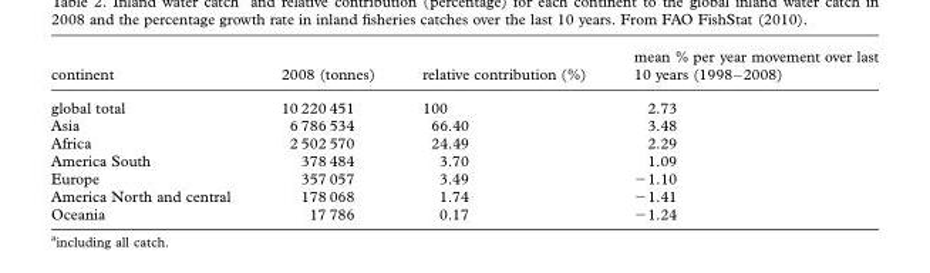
<table><thead><tr><td>continent</td><td>2008 (tonnes)</td><td>relative contribution (%)</td><td>mean % per year movement over last 10 years (1998–2008)</td></tr></thead><tbody><tr><td>global total</td><td>10 220 451</td><td>100</td><td>2.73</td></tr><tr><td>Asia</td><td>6 786 534</td><td>66.40</td><td>3.48</td></tr><tr><td>Africa</td><td>2 502 570</td><td>24.49</td><td>2.29</td></tr><tr><td>America South</td><td>378 484</td><td>3.70</td><td>1.09</td></tr><tr><td>Europe</td><td>357 057</td><td>3.49</td><td>−1.10</td></tr><tr><td>America North and central</td><td>178 068</td><td>1.74</td><td>−1.41</td></tr><tr><td>Oceania</td><td>17 786</td><td>0.17</td><td>−1.24</td></tr></tbody></table>